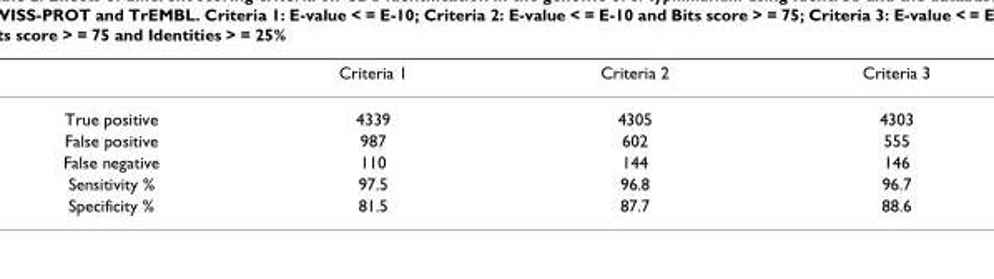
<table><thead><tr><td></td><td>Criteria 1</td><td>Criteria 2</td><td>Criteria 3</td></tr></thead><tbody><tr><td>True positive</td><td>4339</td><td>4305</td><td>4303</td></tr><tr><td>False positive</td><td>987</td><td>602</td><td>555</td></tr><tr><td>False negative</td><td>110</td><td>144</td><td>146</td></tr><tr><td>Sensitivity %</td><td>97.5</td><td>96.8</td><td>96.7</td></tr><tr><td>Specificity %</td><td>81.5</td><td>87.7</td><td>88.6</td></tr></tbody></table>